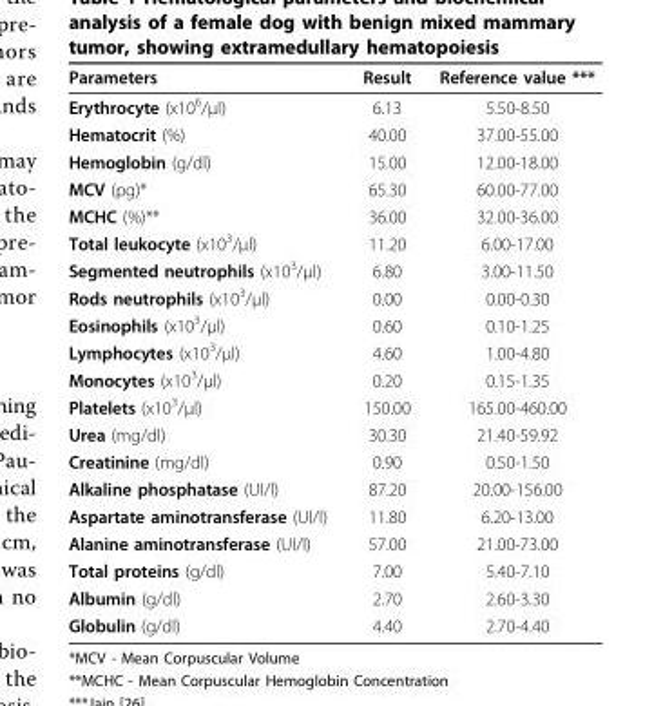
<table><thead><tr><td>Parameters</td><td>Result</td><td>Reference value ***</td></tr></thead><tbody><tr><td>Erythrocyte (x10<sup>6</sup>/μl)</td><td>6.13</td><td>5.50-8.50</td></tr><tr><td>Hematocrit (%)</td><td>40.00</td><td>37.00-55.00</td></tr><tr><td>Hemoglobin (g/dl)</td><td>15.00</td><td>12.00-18.00</td></tr><tr><td>MCV (pg)*</td><td>65.30</td><td>60.00-77.00</td></tr><tr><td>MCHC (%)**</td><td>36.00</td><td>32.00-36.00</td></tr><tr><td>Total leukocyte (x10<sup>3</sup>/μl)</td><td>11.20</td><td>6.00-17.00</td></tr><tr><td>Segmented neutrophils (x10<sup>3</sup>/μl)</td><td>6.80</td><td>3.00-11.50</td></tr><tr><td>Rods neutrophils (x10<sup>3</sup>/μl)</td><td>0.00</td><td>0.00-0.30</td></tr><tr><td>Eosinophils (x10<sup>3</sup>/μl)</td><td>0.60</td><td>0.10-1.25</td></tr><tr><td>Lymphocytes (x10<sup>3</sup>/μl)</td><td>4.60</td><td>1.00-4.80</td></tr><tr><td>Monocytes (x10<sup>3</sup>/μl)</td><td>0.20</td><td>0.15-1.35</td></tr><tr><td>Platelets (x10<sup>3</sup>/μl)</td><td>150.00</td><td>165.00-460.00</td></tr><tr><td>Urea (mg/dl)</td><td>30.30</td><td>21.40-59.92</td></tr><tr><td>Creatinine (mg/dl)</td><td>0.90</td><td>0.50-1.50</td></tr><tr><td>Alkaline phosphatase (UI/l)</td><td>87.20</td><td>20.00-156.00</td></tr><tr><td>Aspartate aminotransferase (UI/l)</td><td>11.80</td><td>6.20-13.00</td></tr><tr><td>Alanine aminotransferase (UI/l)</td><td>57.00</td><td>21.00-73.00</td></tr><tr><td>Total proteins (g/dl)</td><td>7.00</td><td>5.40-7.10</td></tr><tr><td>Albumin (g/dl)</td><td>2.70</td><td>2.60-3.30</td></tr><tr><td>Globulin (g/dl)</td><td>4.40</td><td>2.70-4.40</td></tr></tbody></table>